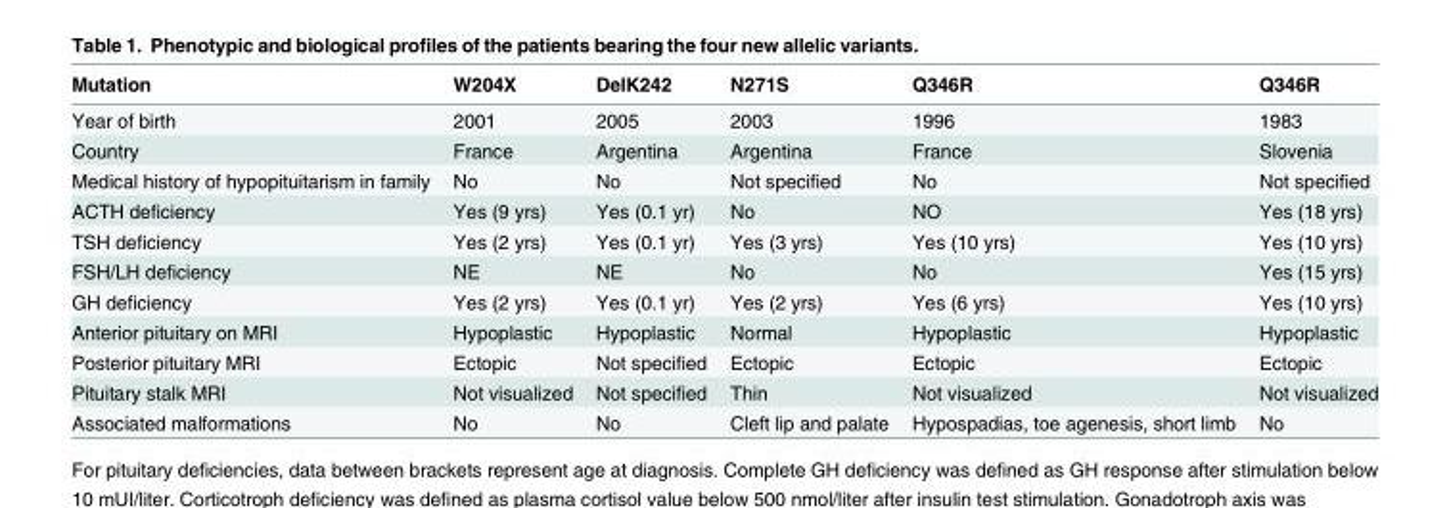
<table><thead><tr><td>Mutation</td><td>W204X</td><td>DelK242</td><td>N271S</td><td>Q346R</td><td>Q346R</td></tr></thead><tbody><tr><td>Year of birth</td><td>2001</td><td>2005</td><td>2003</td><td>1996</td><td>1983</td></tr><tr><td>Country</td><td>France</td><td>Argentina</td><td>Argentina</td><td>France</td><td>Slovenia</td></tr><tr><td>Medical history of hypopituitarism in family</td><td>No</td><td>No</td><td>Not specified</td><td>No</td><td>Not specified</td></tr><tr><td>ACTH deficiency</td><td>Yes (9 yrs)</td><td>Yes (0.1 yr)</td><td>No</td><td>NO</td><td>Yes (18 yrs)</td></tr><tr><td>TSH deficiency</td><td>Yes (2 yrs)</td><td>Yes (0.1 yr)</td><td>Yes (3 yrs)</td><td>Yes (10 yrs)</td><td>Yes (10 yrs)</td></tr><tr><td>FSH/LH deficiency</td><td>NE</td><td>NE</td><td>No</td><td>No</td><td>Yes (15 yrs)</td></tr><tr><td>GH deficiency</td><td>Yes (2 yrs)</td><td>Yes (0.1 yr)</td><td>Yes (2 yrs)</td><td>Yes (6 yrs)</td><td>Yes (10 yrs)</td></tr><tr><td>Anterior pituitary on MRI</td><td>Hypoplastic</td><td>Hypoplastic</td><td>Normal</td><td>Hypoplastic</td><td>Hypoplastic</td></tr><tr><td>Posterior pituitary MRI</td><td>Ectopic</td><td>Not specified</td><td>Ectopic</td><td>Ectopic</td><td>Ectopic</td></tr><tr><td>Pituitary stalk MRI</td><td>Not visualized</td><td>Not specified</td><td>Thin</td><td>Not visualized</td><td>Not visualized</td></tr><tr><td>Associated malformations</td><td>No</td><td>No</td><td>Cleft lip and palate</td><td>Hypospadias, toe agenesis, short limb</td><td>No</td></tr></tbody></table>